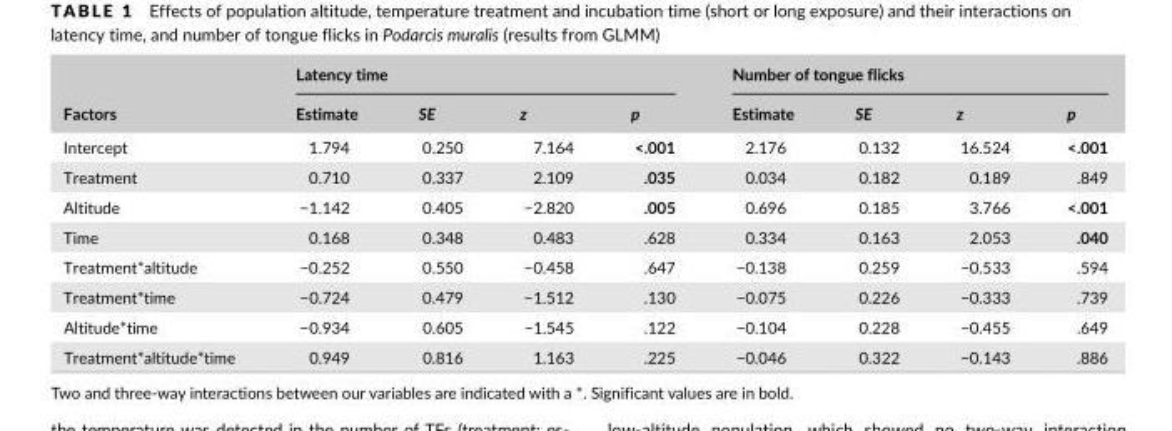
<table><thead><tr><td rowspan="2">Factors</td><td colspan="4">Latency time</td><td colspan="4">Number of tongue flicks</td></tr><tr><td>Estimate</td><td>SE</td><td>z</td><td>p</td><td>Estimate</td><td>SE</td><td>z</td><td>p</td></tr></thead><tbody><tr><td>Intercept</td><td>1.794</td><td>0.250</td><td>7.164</td><td>&lt;.001</td><td>2.176</td><td>0.132</td><td>16.524</td><td>&lt;.001</td></tr><tr><td>Treatment</td><td>0.710</td><td>0.337</td><td>2.109</td><td>.035</td><td>0.034</td><td>0.182</td><td>0.189</td><td>.849</td></tr><tr><td>Altitude</td><td>−1.142</td><td>0.405</td><td>−2.820</td><td>.005</td><td>0.696</td><td>0.185</td><td>3.766</td><td>&lt;.001</td></tr><tr><td>Time</td><td>0.168</td><td>0.348</td><td>0.483</td><td>.628</td><td>0.334</td><td>0.163</td><td>2.053</td><td>.040</td></tr><tr><td>Treatment*altitude</td><td>−0.252</td><td>0.550</td><td>−0.458</td><td>.647</td><td>−0.138</td><td>0.259</td><td>−0.533</td><td>.594</td></tr><tr><td>Treatment*time</td><td>−0.724</td><td>0.479</td><td>−1.512</td><td>.130</td><td>−0.075</td><td>0.226</td><td>−0.333</td><td>.739</td></tr><tr><td>Altitude*time</td><td>−0.934</td><td>0.605</td><td>−1.545</td><td>.122</td><td>−0.104</td><td>0.228</td><td>−0.455</td><td>.649</td></tr><tr><td>Treatment*altitude*time</td><td>0.949</td><td>0.816</td><td>1.163</td><td>.225</td><td>−0.046</td><td>0.322</td><td>−0.143</td><td>.886</td></tr></tbody></table>